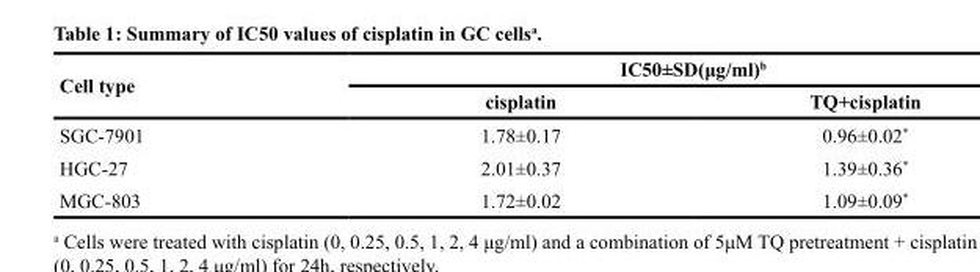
<table><thead><tr><td rowspan="2">Cell type</td><td colspan="2">IC50±SD(μg/ml)<sup>b</sup></td></tr><tr><td>cisplatin</td><td>TQ+cisplatin</td></tr></thead><tbody><tr><td>SGC-7901</td><td>1.78±0.17</td><td>0.96±0.02*</td></tr><tr><td>HGC-27</td><td>2.01±0.37</td><td>1.39±0.36*</td></tr><tr><td>MGC-803</td><td>1.72±0.02</td><td>1.09±0.09*</td></tr></tbody></table>